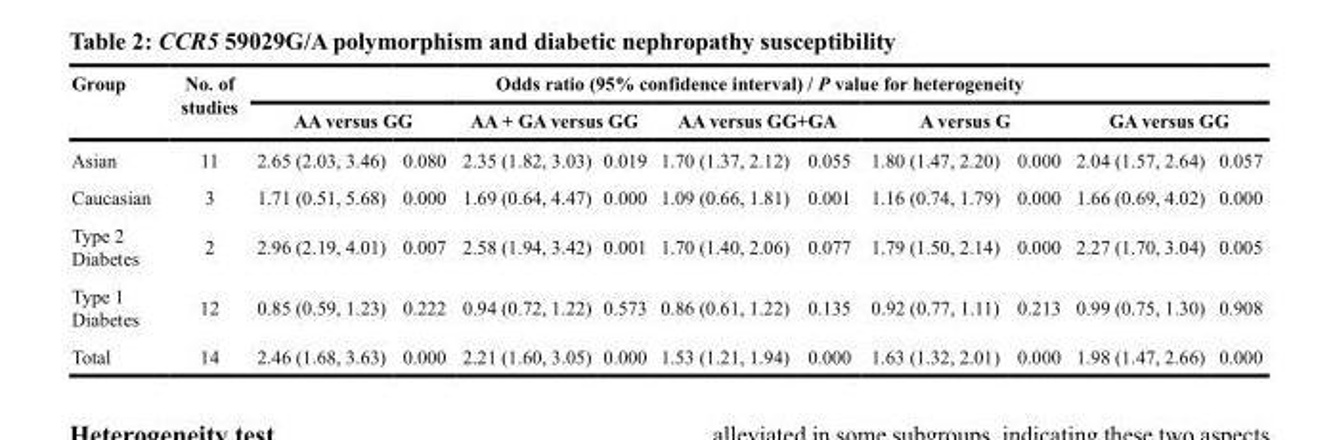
<table><thead><tr><td rowspan="3">Group Asian</td><td rowspan="3">No. of studies 11</td><td colspan="10">Odds ratio (95% confidence interval) / P value for heterogeneity</td></tr><tr><td colspan="2">AA versus GG</td><td colspan="2">AA + GA versus GG</td><td colspan="2">AA versus GG+GA</td><td colspan="2">A versus G</td><td colspan="2">GA versus GG</td></tr><tr><td>2.65 (2.03, 3.46)</td><td>0.080</td><td>2.35 (1.82, 3.03)</td><td>0.019</td><td>1.70 (1.37, 2.12)</td><td>0.055</td><td>1.80 (1.47, 2.20)</td><td>0.000</td><td>2.04 (1.57, 2.64)</td><td>0.057</td></tr></thead><tbody><tr><td>Caucasian</td><td>3</td><td>1.71 (0.51, 5.68)</td><td>0.000</td><td>1.69 (0.64, 4.47)</td><td>0.000</td><td>1.09 (0.66, 1.81)</td><td>0.001</td><td>1.16 (0.74, 1.79)</td><td>0.000</td><td>1.66 (0.69, 4.02)</td><td>0.000</td></tr><tr><td>Type 2 Diabetes</td><td>2</td><td>2.96 (2.19, 4.01)</td><td>0.007</td><td>2.58 (1.94, 3.42)</td><td>0.001</td><td>1.70 (1.40, 2.06)</td><td>0.077</td><td>1.79 (1.50, 2.14)</td><td>0.000</td><td>2.27 (1.70, 3.04)</td><td>0.005</td></tr><tr><td>Type 1 Diabetes</td><td>12</td><td>0.85 (0.59, 1.23)</td><td>0.222</td><td>0.94 (0.72, 1.22)</td><td>0.573</td><td>0.86 (0.61, 1.22)</td><td>0.135</td><td>0.92 (0.77, 1.11)</td><td>0.213</td><td>0.99 (0.75, 1.30)</td><td>0.908</td></tr><tr><td>Total</td><td>14</td><td>2.46 (1.68, 3.63)</td><td>0.000</td><td>2.21 (1.60, 3.05)</td><td>0.000</td><td>1.53 (1.21, 1.94)</td><td>0.000</td><td>1.63 (1.32, 2.01)</td><td>0.000</td><td>1.98 (1.47, 2.66)</td><td>0.000</td></tr></tbody></table>